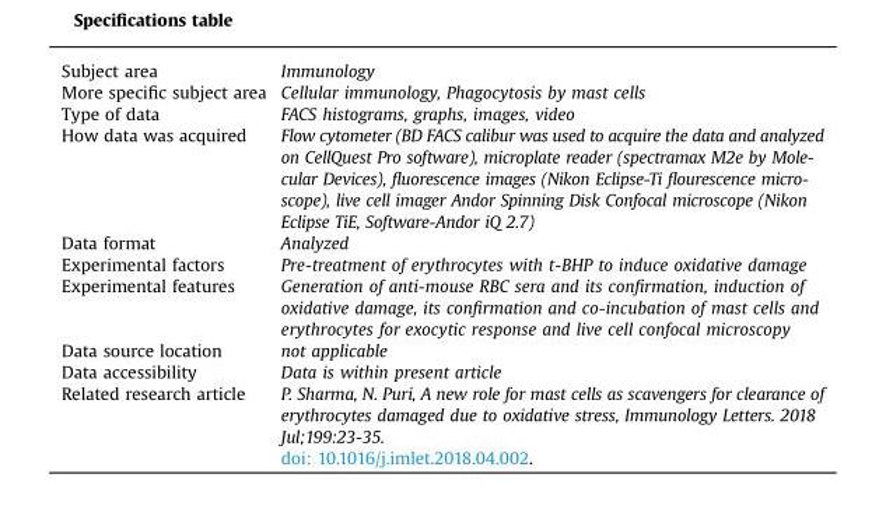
<table><tbody><tr><td>Subject area</td><td>Immunology</td></tr><tr><td>More specific subject area</td><td>Cellular immunology, Phagocytosis by mast cells</td></tr><tr><td>Type of data</td><td>FACS histograms, graphs, images, video</td></tr><tr><td>How data was acquired</td><td>Flow cytometer (BD FACS calibur was used to acquire the data and analyzed on CellQuest Pro software), microplate reader (spectramax M2e by Mole- cular Devices), fluorescence images (Nikon Eclipse-Ti flourescence micro- scope), live cell imager Andor Spinning Disk Confocal microscope (Nikon Eclipse TiE, Software-Andor iQ 2.7)</td></tr><tr><td>Data format</td><td>Analyzed</td></tr><tr><td>Experimental factors</td><td>Pre-treatment of erythrocytes with t-BHP to induce oxidative damage</td></tr><tr><td>Experimental features</td><td>Generation of anti-mouse RBC sera and its confirmation, induction of oxidative damage, its confirmation and co-incubation of mast cells and erythrocytes for exocytic response and live cell confocal microscopy</td></tr><tr><td>Data source location</td><td>not applicable</td></tr><tr><td>Data accessibility</td><td>Data is within present article</td></tr><tr><td rowspan="2">Related research article</td><td>P. Sharma, N. Puri, A new role for mast cells as scavengers for clearance of erythrocytes damaged due to oxidative stress, Immunology Letters. 2018 Jul;199:23-35.</td></tr><tr><td>doi: 10.1016/j.imlet.2018.04.002.</td></tr></tbody></table>